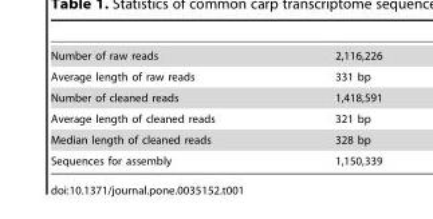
<table><tbody><tr><td>Number of raw reads</td><td>2,116,226</td></tr><tr><td>Average length of raw reads</td><td>331 bp</td></tr><tr><td>Number of cleaned reads</td><td>1,418,591</td></tr><tr><td>Average length of cleaned reads</td><td>321 bp</td></tr><tr><td>Median length of cleaned reads</td><td>328 bp</td></tr><tr><td>Sequences for assembly</td><td>1,150,339</td></tr></tbody></table>